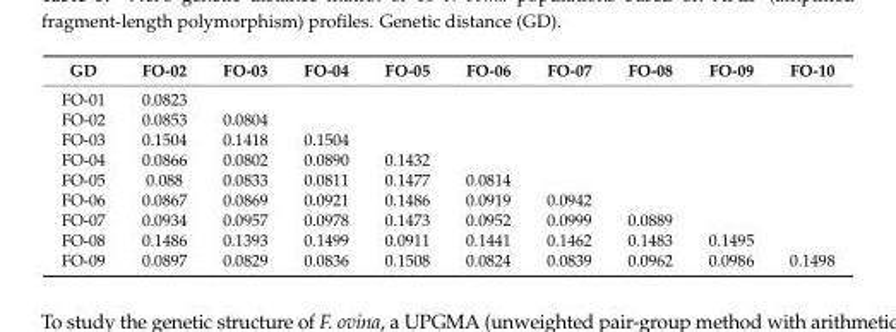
<table><thead><tr><td>GD</td><td>FO-02</td><td>FO-03</td><td>FO-04</td><td>FO-05</td><td>FO-06</td><td>FO-07</td><td>FO-08</td><td>FO-09</td><td>FO-10</td></tr></thead><tbody><tr><td>FO-01</td><td>0.0823</td><td></td><td></td><td></td><td></td><td></td><td></td><td></td><td></td></tr><tr><td>FO-02</td><td>0.0853</td><td>0.0804</td><td></td><td></td><td></td><td></td><td></td><td></td><td></td></tr><tr><td>FO-03</td><td>0.1504</td><td>0.1418</td><td>0.1504</td><td></td><td></td><td></td><td></td><td></td><td></td></tr><tr><td>FO-04</td><td>0.0866</td><td>0.0802</td><td>0.0890</td><td>0.1432</td><td></td><td></td><td></td><td></td><td></td></tr><tr><td>FO-05</td><td>0.088</td><td>0.0833</td><td>0.0811</td><td>0.1477</td><td>0.0814</td><td></td><td></td><td></td><td></td></tr><tr><td>FO-06</td><td>0.0867</td><td>0.0869</td><td>0.0921</td><td>0.1486</td><td>0.0919</td><td>0.0942</td><td></td><td></td><td></td></tr><tr><td>FO-07</td><td>0.0934</td><td>0.0957</td><td>0.0978</td><td>0.1473</td><td>0.0952</td><td>0.0999</td><td>0.0889</td><td></td><td></td></tr><tr><td>FO-08</td><td>0.1486</td><td>0.1393</td><td>0.1499</td><td>0.0911</td><td>0.1441</td><td>0.1462</td><td>0.1483</td><td>0.1495</td><td></td></tr><tr><td>FO-09</td><td>0.0897</td><td>0.0829</td><td>0.0836</td><td>0.1508</td><td>0.0824</td><td>0.0839</td><td>0.0962</td><td>0.0986</td><td>0.1498</td></tr></tbody></table>